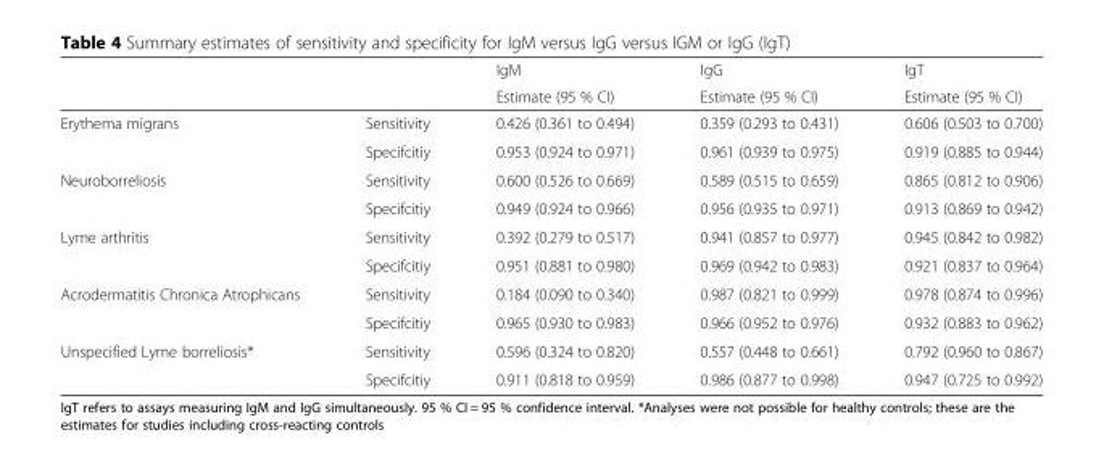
<table><thead><tr><td rowspan="2"></td><td rowspan="2"></td><td rowspan="2">IgM Estimate (95 % CI)</td><td rowspan="2">IgG Estimate (95 % CI)</td><td rowspan="2">IgT Estimate (95 % CI)</td></tr><tr></tr></thead><tbody><tr><td rowspan="2">Erythema migrans</td><td>Sensitivity</td><td>0.426 (0.361 to 0.494)</td><td>0.359 (0.293 to 0.431)</td><td>0.606 (0.503 to 0.700)</td></tr><tr><td>Specifcitiy</td><td>0.953 (0.924 to 0.971)</td><td>0.961 (0.939 to 0.975)</td><td>0.919 (0.885 to 0.944)</td></tr><tr><td rowspan="2">Neuroborreliosis</td><td>Sensitivity</td><td>0.600 (0.526 to 0.669)</td><td>0.589 (0.515 to 0.659)</td><td>0.865 (0.812 to 0.906)</td></tr><tr><td>Specifcitiy</td><td>0.949 (0.924 to 0.966)</td><td>0.956 (0.935 to 0.971)</td><td>0.913 (0.869 to 0.942)</td></tr><tr><td rowspan="2">Lyme arthritis</td><td>Sensitivity</td><td>0.392 (0.279 to 0.517)</td><td>0.941 (0.857 to 0.977)</td><td>0.945 (0.842 to 0.982)</td></tr><tr><td>Specifcitiy</td><td>0.951 (0.881 to 0.980)</td><td>0.969 (0.942 to 0.983)</td><td>0.921 (0.837 to 0.964)</td></tr><tr><td rowspan="2">Acrodermatitis Chronica Atrophicans</td><td>Sensitivity</td><td>0.184 (0.090 to 0.340)</td><td>0.987 (0.821 to 0.999)</td><td>0.978 (0.874 to 0.996)</td></tr><tr><td>Specifcitiy</td><td>0.965 (0.930 to 0.983)</td><td>0.966 (0.952 to 0.976)</td><td>0.932 (0.883 to 0.962)</td></tr><tr><td rowspan="2">Unspecified Lyme borreliosis*</td><td>Sensitivity</td><td>0.596 (0.324 to 0.820)</td><td>0.557 (0.448 to 0.661)</td><td>0.792 (0.960 to 0.867)</td></tr><tr><td>Specifcitiy</td><td>0.911 (0.818 to 0.959)</td><td>0.986 (0.877 to 0.998)</td><td>0.947 (0.725 to 0.992)</td></tr></tbody></table>